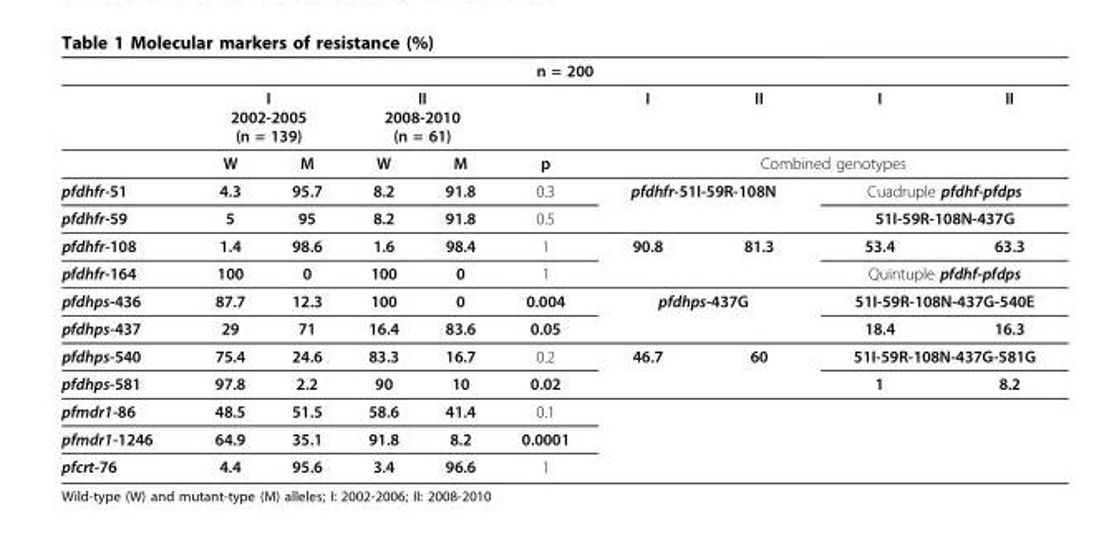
<table><thead><tr><td colspan="10">n = 200</td></tr><tr><td rowspan="2"></td><td colspan="2">I 2002-2005 (n = 139)</td><td colspan="2">II 2008-2010 (n = 61)</td><td rowspan="2">p</td><td>I</td><td>II</td><td>I</td><td>II</td></tr><tr><td>W</td><td>M</td><td>W</td><td>M</td><td colspan="4">Combined genotypes</td></tr></thead><tbody><tr><td>pfdhfr-51</td><td>4.3</td><td>95.7</td><td>8.2</td><td>91.8</td><td>0.3</td><td colspan="2">pfdhfr-51I-59R-108N</td><td colspan="2">Cuadruple pfdhf-pfdps</td></tr><tr><td>pfdhfr-59</td><td>5</td><td>95</td><td>8.2</td><td>91.8</td><td>0.5</td><td></td><td></td><td colspan="2">51I-59R-108N-437G</td></tr><tr><td>pfdhfr-108</td><td>1.4</td><td>98.6</td><td>1.6</td><td>98.4</td><td>1</td><td>90.8</td><td>81.3</td><td>53.4</td><td>63.3</td></tr><tr><td>pfdhfr-164</td><td>100</td><td>0</td><td>100</td><td>0</td><td>1</td><td></td><td></td><td colspan="2">Quintuple pfdhf-pfdps</td></tr><tr><td>pfdhps-436</td><td>87.7</td><td>12.3</td><td>100</td><td>0</td><td>0.004</td><td colspan="2">pfdhps-437G</td><td colspan="2">51I-59R-108N-437G-540E</td></tr><tr><td>pfdhps-437</td><td>29</td><td>71</td><td>16.4</td><td>83.6</td><td>0.05</td><td></td><td></td><td>18.4</td><td>16.3</td></tr><tr><td>pfdhps-540</td><td>75.4</td><td>24.6</td><td>83.3</td><td>16.7</td><td>0.2</td><td>46.7</td><td>60</td><td colspan="2">51I-59R-108N-437G-581G</td></tr><tr><td>pfdhps-581</td><td>97.8</td><td>2.2</td><td>90</td><td>10</td><td>0.02</td><td></td><td></td><td>1</td><td>8.2</td></tr><tr><td>pfmdr1-86</td><td>48.5</td><td>51.5</td><td>58.6</td><td>41.4</td><td>0.1</td><td></td><td></td><td></td><td></td></tr><tr><td>pfmdr1-1246</td><td>64.9</td><td>35.1</td><td>91.8</td><td>8.2</td><td>0.0001</td><td></td><td></td><td></td><td></td></tr><tr><td>pfcrt-76</td><td>4.4</td><td>95.6</td><td>3.4</td><td>96.6</td><td>1</td><td></td><td></td><td></td><td></td></tr></tbody></table>